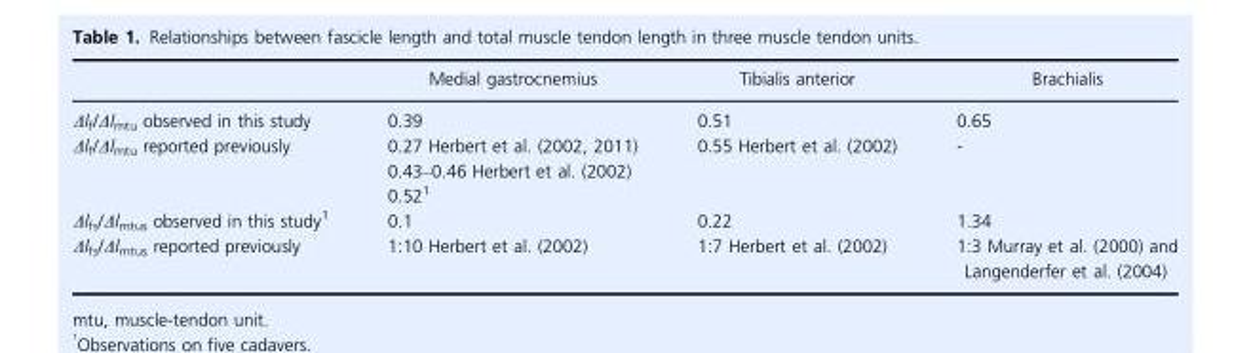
<table><thead><tr><td></td><td>Medial gastrocnemius</td><td>Tibialis anterior</td><td>Brachialis</td></tr></thead><tbody><tr><td>Δl<sub>f</sub>/Δl<sub>mtu</sub> observed in this study</td><td>0.39</td><td>0.51</td><td>0.65</td></tr><tr><td>Δl<sub>f</sub>/Δl<sub>mtu</sub> reported previously</td><td>0.27 Herbert et al. (2002, 2011) 0.43–0.46 Herbert et al. (2002) 0.521</td><td>0.55 Herbert et al. (2002)</td><td>-</td></tr><tr><td>Dlfs/Dlmtus observed in this study1</td><td>0.1</td><td>0.22</td><td>1.34</td></tr><tr><td>Δl<sub>fs</sub>/Δl<sub>mtus</sub> reported previously</td><td>1:10 Herbert et al. (2002)</td><td>1:7 Herbert et al. (2002)</td><td>1:3 Murray et al. (2000) and Langenderfer et al. (2004)</td></tr></tbody></table>